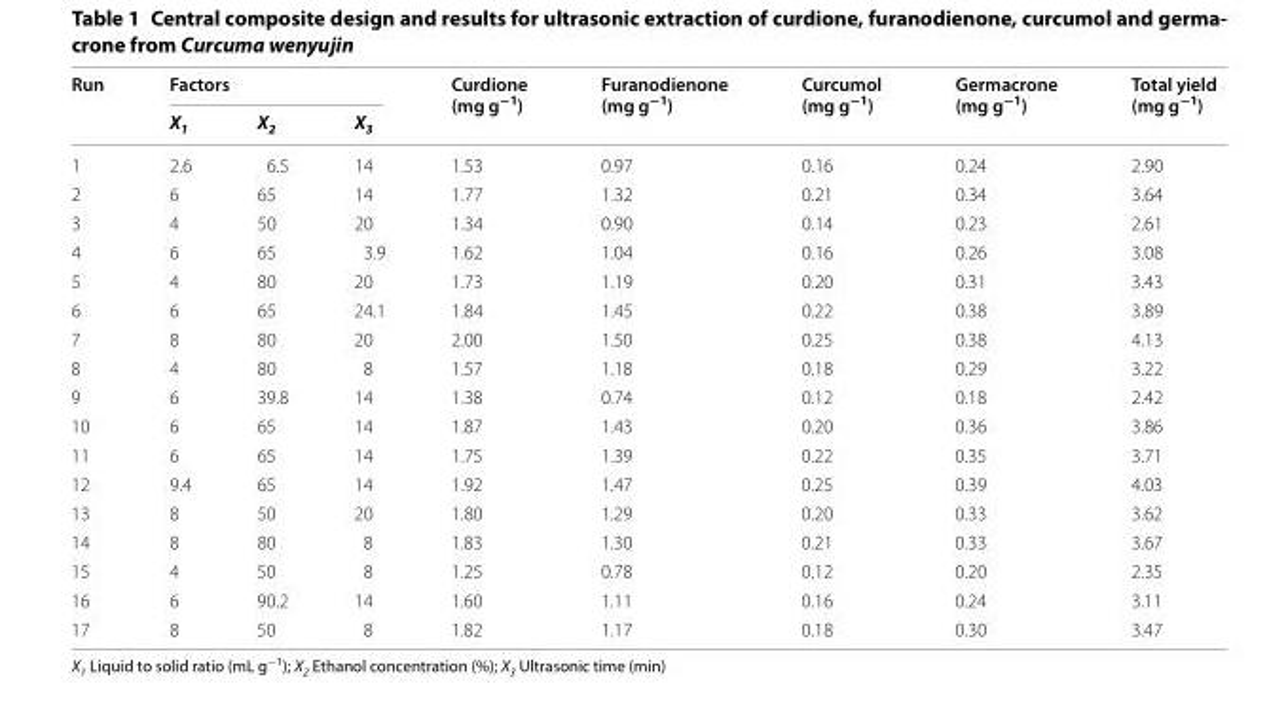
<table><thead><tr><td rowspan="2">Run</td><td colspan="3">Factors</td><td rowspan="2">Curdione (mg g<sup>−1</sup>)</td><td rowspan="2">Furanodienone (mg g<sup>−1</sup>)</td><td rowspan="2">Curcumol (mg g<sup>−1</sup>)</td><td rowspan="2">Germacrone (mg g<sup>−1</sup>)</td><td rowspan="2">Total yield (mg g<sup>−1</sup>)</td></tr><tr><td>X<sub>1</sub></td><td>X<sub>2</sub></td><td>X<sub>3</sub></td></tr></thead><tbody><tr><td>1</td><td>2.6</td><td>6.5</td><td>14</td><td>1.53</td><td>0.97</td><td>0.16</td><td>0.24</td><td>2.90</td></tr><tr><td>2</td><td>6</td><td>65</td><td>14</td><td>1.77</td><td>1.32</td><td>0.21</td><td>0.34</td><td>3.64</td></tr><tr><td>3</td><td>4</td><td>50</td><td>20</td><td>1.34</td><td>0.90</td><td>0.14</td><td>0.23</td><td>2.61</td></tr><tr><td>4</td><td>6</td><td>65</td><td>3.9</td><td>1.62</td><td>1.04</td><td>0.16</td><td>0.26</td><td>3.08</td></tr><tr><td>5</td><td>4</td><td>80</td><td>20</td><td>1.73</td><td>1.19</td><td>0.20</td><td>0.31</td><td>3.43</td></tr><tr><td>6</td><td>6</td><td>65</td><td>24.1</td><td>1.84</td><td>1.45</td><td>0.22</td><td>0.38</td><td>3.89</td></tr><tr><td>7</td><td>8</td><td>80</td><td>20</td><td>2.00</td><td>1.50</td><td>0.25</td><td>0.38</td><td>4.13</td></tr><tr><td>8</td><td>4</td><td>80</td><td>8</td><td>1.57</td><td>1.18</td><td>0.18</td><td>0.29</td><td>3.22</td></tr><tr><td>9</td><td>6</td><td>39.8</td><td>14</td><td>1.38</td><td>0.74</td><td>0.12</td><td>0.18</td><td>2.42</td></tr><tr><td>10</td><td>6</td><td>65</td><td>14</td><td>1.87</td><td>1.43</td><td>0.20</td><td>0.36</td><td>3.86</td></tr><tr><td>11</td><td>6</td><td>65</td><td>14</td><td>1.75</td><td>1.39</td><td>0.22</td><td>0.35</td><td>3.71</td></tr><tr><td>12</td><td>9.4</td><td>65</td><td>14</td><td>1.92</td><td>1.47</td><td>0.25</td><td>0.39</td><td>4.03</td></tr><tr><td>13</td><td>8</td><td>50</td><td>20</td><td>1.80</td><td>1.29</td><td>0.20</td><td>0.33</td><td>3.62</td></tr><tr><td>14</td><td>8</td><td>80</td><td>8</td><td>1.83</td><td>1.30</td><td>0.21</td><td>0.33</td><td>3.67</td></tr><tr><td>15</td><td>4</td><td>50</td><td>8</td><td>1.25</td><td>0.78</td><td>0.12</td><td>0.20</td><td>2.35</td></tr><tr><td>16</td><td>6</td><td>90.2</td><td>14</td><td>1.60</td><td>1.11</td><td>0.16</td><td>0.24</td><td>3.11</td></tr><tr><td>17</td><td>8</td><td>50</td><td>8</td><td>1.82</td><td>1.17</td><td>0.18</td><td>0.30</td><td>3.47</td></tr></tbody></table>